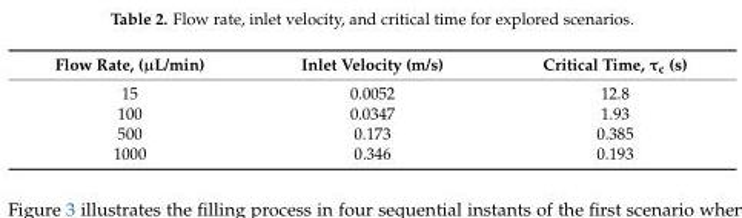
<table><thead><tr><td>Flow Rate, (µL/min)</td><td>Inlet Velocity (m/s)</td><td>Critical Time, τ<sub>c</sub> (s)</td></tr></thead><tbody><tr><td>15</td><td>0.0052</td><td>12.8</td></tr><tr><td>100</td><td>0.0347</td><td>1.93</td></tr><tr><td>500</td><td>0.173</td><td>0.385</td></tr><tr><td>1000</td><td>0.346</td><td>0.193</td></tr></tbody></table>